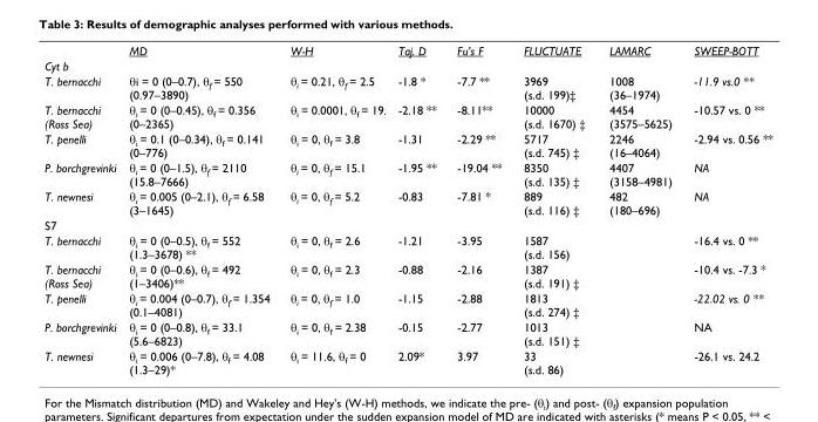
<table><thead><tr><td></td><td>MD</td><td>W-H</td><td>Taj. D</td><td>Fu&#x27;s F</td><td>FLUCTUATE</td><td>LAMARC</td><td>SWEEP-BOTT</td></tr></thead><tbody><tr><td colspan="8">Cyt b</td></tr><tr><td>T. bernacchi</td><td>θi = 0 (0–0.7), θ<sub>f</sub> = 550 (0.97–3890)</td><td>θ<sub>i</sub> = 0.21, θ<sub>f</sub> = 2.5</td><td>-1.8 *</td><td>-7.7 **</td><td>3969 (s.d. 199)‡</td><td>1008 (36–1974)</td><td>-11.9 vs.0 **</td></tr><tr><td>T. bernacchi (Ross Sea)</td><td>θ<sub>i</sub> = 0 (0–0.45), θ<sub>f</sub> = 0.356 (0–2365)</td><td>θ<sub>i</sub> = 0.0001, θ<sub>f</sub> = 19.</td><td>-2.18 **</td><td>-8.11**</td><td>10000 (s.d. 1670) ‡</td><td>4454 (3575–5625)</td><td>-10.57 vs. 0 **</td></tr><tr><td>T. penelli</td><td>θ<sub>i</sub> = 0.1 (0–0.34), θ<sub>f</sub> = 0.141 (0–776)</td><td>θ<sub>i</sub> = 0, θ<sub>f</sub> = 3.8</td><td>-1.31</td><td>-2.29 **</td><td>5717 (s.d. 745) ‡</td><td>2246 (16–4064)</td><td>-2.94 vs. 0.56 **</td></tr><tr><td>P. borchgrevinki</td><td>θ<sub>i</sub> = 0 (0–1.5), θ<sub>f</sub> = 2110 (15.8–7666)</td><td>θ<sub>i</sub> = 0, θ<sub>f</sub> = 15.1</td><td>-1.95 **</td><td>-19.04 **</td><td>8350 (s.d. 135) ‡</td><td>4407 (3158–4981)</td><td>NA</td></tr><tr><td>T. newnesi</td><td>θ<sub>i</sub> = 0.005 (0–2.1), θ<sub>f</sub> = 6.58 (3–1645)</td><td>θ<sub>i</sub> = 0, θ<sub>f</sub> = 5.2</td><td>-0.83</td><td>-7.81 *</td><td>889 (s.d. 116) ‡</td><td>482 (180–696)</td><td>NA</td></tr><tr><td colspan="8">S7</td></tr><tr><td>T. bernacchi</td><td>θ<sub>i</sub> = 0 (0–0.5), θ<sub>f</sub> = 552 (1.3–3678) **</td><td>θ<sub>i</sub> = 0, θ<sub>f</sub> = 2.6</td><td>-1.21</td><td>-3.95</td><td>1587 (s.d. 156)</td><td></td><td>-16.4 vs. 0 **</td></tr><tr><td>T. bernacchi (Ross Sea)</td><td>θ<sub>i</sub> = 0 (0–0.6), θ<sub>f</sub> = 492 (1–3406)**</td><td>θ<sub>i</sub> = 0, θ<sub>f</sub> = 2.3</td><td>-0.88</td><td>-2.16</td><td>1387 (s.d. 191) ‡</td><td></td><td>-10.4 vs. -7.3 *</td></tr><tr><td>T. penelli</td><td>θ<sub>i</sub> = 0.004 (0–0.7), θ<sub>f</sub> = 1.354 (0.1–4081)</td><td>θ<sub>i</sub> = 0, θ<sub>f</sub> = 1.0</td><td>-1.15</td><td>-2.88</td><td>1813 (s.d. 274) ‡</td><td></td><td>-22.02 vs. 0 **</td></tr><tr><td>P. borchgrevinki</td><td>θ<sub>i</sub> = 0 (0–0.8), θ<sub>f</sub> = 33.1 (5.6–6823)</td><td>θ<sub>i</sub> = 0, θ<sub>f</sub> = 2.38</td><td>-0.15</td><td>-2.77</td><td>1013 (s.d. 151) ‡</td><td></td><td>NA</td></tr><tr><td>T. newnesi</td><td>θ<sub>i</sub> = 0.006 (0–7.8), θ<sub>f</sub> = 4.08 (1.3–29)*</td><td>θ<sub>i</sub> = 11.6, θ<sub>f</sub> = 0</td><td>2.09*</td><td>3.97</td><td>33 (s.d. 86)</td><td></td><td>-26.1 vs. 24.2</td></tr></tbody></table>